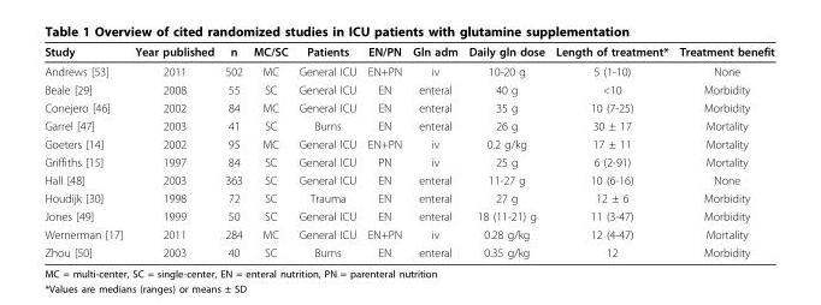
<table><thead><tr><td>Study</td><td>Year published</td><td>n</td><td>MC/SC</td><td>Patients</td><td>EN/PN</td><td>Gln adm</td><td>Daily gln dose</td><td>Length of treatment*</td><td>Treatment benefit</td></tr></thead><tbody><tr><td>Andrews [53]</td><td>2011</td><td>502</td><td>MC</td><td>General ICU</td><td>EN+PN</td><td>iv</td><td>10-20 g</td><td>5 (1-10)</td><td>None</td></tr><tr><td>Beale [29]</td><td>2008</td><td>55</td><td>SC</td><td>General ICU</td><td>EN</td><td>enteral</td><td>40 g</td><td>&lt;10</td><td>Morbidity</td></tr><tr><td>Conejero [46]</td><td>2002</td><td>84</td><td>MC</td><td>General ICU</td><td>EN</td><td>enteral</td><td>35 g</td><td>10 (7-25)</td><td>Morbidity</td></tr><tr><td>Garrel [47]</td><td>2003</td><td>41</td><td>SC</td><td>Burns</td><td>EN</td><td>enteral</td><td>26 g</td><td>30 ± 17</td><td>Mortality</td></tr><tr><td>Goeters [14]</td><td>2002</td><td>95</td><td>MC</td><td>General ICU</td><td>EN+PN</td><td>iv</td><td>0.2 g/kg</td><td>17 ± 11</td><td>Mortality</td></tr><tr><td>Griffiths [15]</td><td>1997</td><td>84</td><td>SC</td><td>General ICU</td><td>PN</td><td>iv</td><td>25 g</td><td>6 (2-91)</td><td>Mortality</td></tr><tr><td>Hall [48]</td><td>2003</td><td>363</td><td>SC</td><td>General ICU</td><td>EN</td><td>enteral</td><td>11-27 g</td><td>10 (6-16)</td><td>None</td></tr><tr><td>Houdijk [30]</td><td>1998</td><td>72</td><td>SC</td><td>Trauma</td><td>EN</td><td>enteral</td><td>27 g</td><td>12 ± 6</td><td>Morbidity</td></tr><tr><td>Jones [49]</td><td>1999</td><td>50</td><td>SC</td><td>General ICU</td><td>EN</td><td>enteral</td><td>18 (11-21) g</td><td>11 (3-47)</td><td>Morbidity</td></tr><tr><td>Wernerman [17]</td><td>2011</td><td>284</td><td>MC</td><td>General ICU</td><td>EN+PN</td><td>iv</td><td>0.28 g/kg</td><td>12 (4-47)</td><td>Mortality</td></tr><tr><td>Zhou [50]</td><td>2003</td><td>40</td><td>SC</td><td>Burns</td><td>EN</td><td>enteral</td><td>0.35 g/kg</td><td>12</td><td>Morbidity</td></tr></tbody></table>